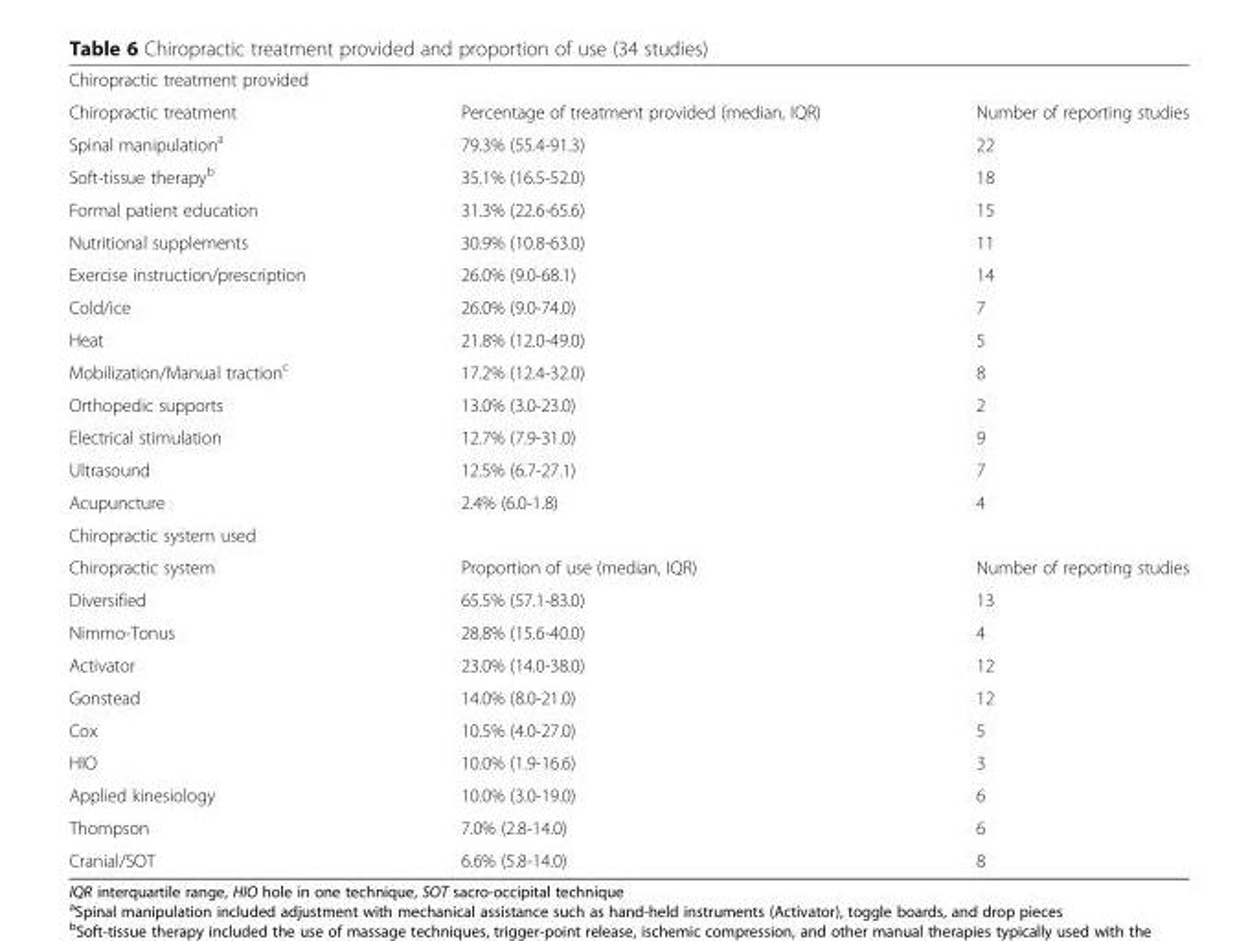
<table><tbody><tr><td colspan="3">Chiropractic treatment provided</td></tr><tr><td>Chiropractic treatment</td><td>Percentage of treatment provided (median, IQR)</td><td>Number of reporting studies</td></tr><tr><td>Spinal manipulation<sup>a</sup></td><td>79.3% (55.4-91.3)</td><td>22</td></tr><tr><td>Soft-tissue therapy<sup>b</sup></td><td>35.1% (16.5-52.0)</td><td>18</td></tr><tr><td>Formal patient education</td><td>31.3% (22.6-65.6)</td><td>15</td></tr><tr><td>Nutritional supplements</td><td>30.9% (10.8-63.0)</td><td>11</td></tr><tr><td>Exercise instruction/prescription</td><td>26.0% (9.0-68.1)</td><td>14</td></tr><tr><td>Cold/ice</td><td>26.0% (9.0-74.0)</td><td>7</td></tr><tr><td>Heat</td><td>21.8% (12.0-49.0)</td><td>5</td></tr><tr><td>Mobilization/Manual traction<sup>c</sup></td><td>17.2% (12.4-32.0)</td><td>8</td></tr><tr><td>Orthopedic supports</td><td>13.0% (3.0-23.0)</td><td>2</td></tr><tr><td>Electrical stimulation</td><td>12.7% (7.9-31.0)</td><td>9</td></tr><tr><td>Ultrasound</td><td>12.5% (6.7-27.1)</td><td>7</td></tr><tr><td>Acupuncture</td><td>2.4% (6.0-1.8)</td><td>4</td></tr><tr><td colspan="3">Chiropractic system used</td></tr><tr><td>Chiropractic system</td><td>Proportion of use (median, IQR)</td><td>Number of reporting studies</td></tr><tr><td>Diversified</td><td>65.5% (57.1-83.0)</td><td>13</td></tr><tr><td>Nimmo-Tonus</td><td>28.8% (15.6-40.0)</td><td>4</td></tr><tr><td>Activator</td><td>23.0% (14.0-38.0)</td><td>12</td></tr><tr><td>Gonstead</td><td>14.0% (8.0-21.0)</td><td>12</td></tr><tr><td>Cox</td><td>10.5% (4.0-27.0)</td><td>5</td></tr><tr><td>HIO</td><td>10.0% (1.9-16.6)</td><td>3</td></tr><tr><td>Applied kinesiology</td><td>10.0% (3.0-19.0)</td><td>6</td></tr><tr><td>Thompson</td><td>7.0% (2.8-14.0)</td><td>6</td></tr><tr><td>Cranial/SOT</td><td>6.6% (5.8-14.0)</td><td>8</td></tr></tbody></table>